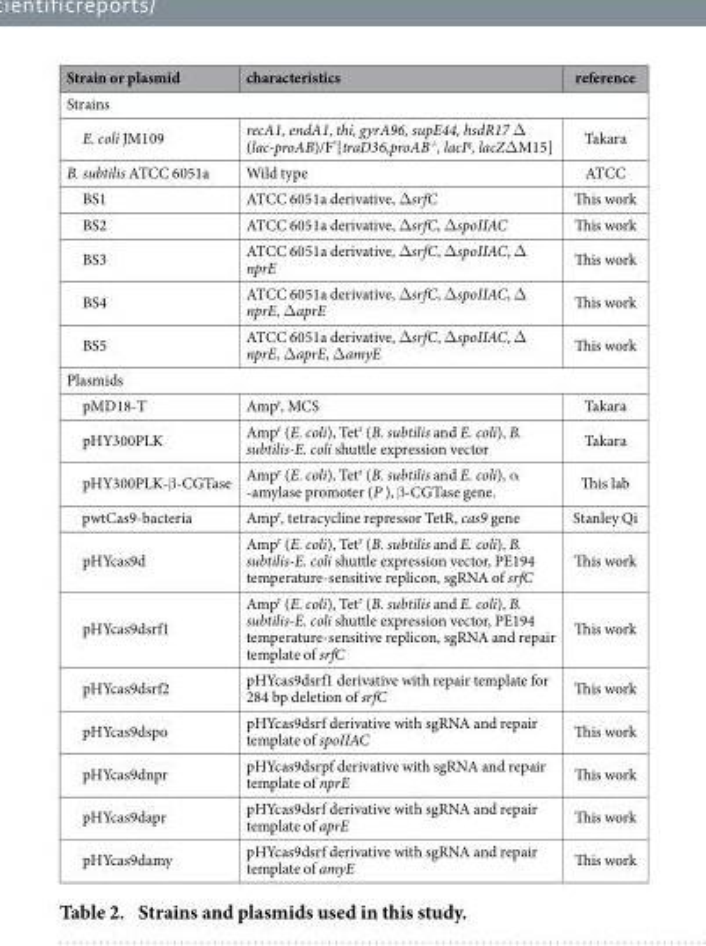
<table><thead><tr><td>Strain or plasmid</td><td>characteristics</td><td>reference</td></tr></thead><tbody><tr><td colspan="3">Strains</td></tr><tr><td>E. coli JM109</td><td>recA1, endA1, thi, gyrA96, supE44, hsdR17 Δ (lac-proAB)/F’[traD36,proAB<sup>+</sup>, lacІ<sup>q</sup>, lacZΔ M15]</td><td>Takara</td></tr><tr><td>B. subtilis ATCC 6051a</td><td>Wild type</td><td>ATCC</td></tr><tr><td>BS1</td><td>ATCC 6051a derivative, Δ srfC</td><td>This work</td></tr><tr><td>BS2</td><td>ATCC 6051a derivative, Δ srfC, Δ spoIIAC</td><td>This work</td></tr><tr><td>BS3</td><td>ATCC 6051a derivative, Δ srfC, Δ spoIIAC, Δ nprE</td><td>This work</td></tr><tr><td>BS4</td><td>ATCC 6051a derivative, Δ srfC, Δ spoIIAC, Δ nprE, Δ aprE</td><td>This work</td></tr><tr><td>BS5</td><td>ATCC 6051a derivative, Δ srfC, Δ spoIIAC, Δ nprE, Δ aprE, Δ amyE</td><td>This work</td></tr><tr><td colspan="3">Plasmids</td></tr><tr><td>pMD18-T</td><td>Amp<sup>r</sup>, MCS</td><td>Takara</td></tr><tr><td>pHY300PLK</td><td>Amp<sup>r</sup> (E. coli), Tet<sup>r</sup> (B. subtilis and E. coli), B. subtilis-E. coli shuttle expression vector</td><td>Takara</td></tr><tr><td>pHY300PLK-β -CGTase</td><td>Amp<sup>r</sup> (E. coli), Tet<sup>r</sup> (B. subtilis and E. coli), α -amylase promoter (P ), β -CGTase gene.</td><td>This lab</td></tr><tr><td>pwtCas9-bacteria</td><td>Amp<sup>r</sup>, tetracycline repressor TetR, cas9 gene</td><td>Stanley Qi</td></tr><tr><td>pHYcas9d</td><td>Amp<sup>r</sup> (E. coli), Tet<sup>r</sup> (B. subtilis and E. coli), B. subtilis-E. coli shuttle expression vector, PE194 temperature-sensitive replicon, sgRNA of srfC</td><td>This work</td></tr><tr><td>pHYcas9dsrf1</td><td>Amp<sup>r</sup> (E. coli), Tet<sup>r</sup> (B. subtilis and E. coli), B. subtilis-E. coli shuttle expression vector, PE194 temperature-sensitive replicon, sgRNA and repair template of srfC</td><td>This work</td></tr><tr><td>pHYcas9dsrf2</td><td>pHYcas9dsrf1 derivative with repair template for 284 bp deletion of srfC</td><td>This work</td></tr><tr><td>pHYcas9dspo</td><td>pHYcas9dsrf derivative with sgRNA and repair template of spoIIAC</td><td>This work</td></tr><tr><td>pHYcas9dnpr</td><td>pHYcas9dsrpf derivative with sgRNA and repair template of nprE</td><td>This work</td></tr><tr><td>pHYcas9dapr</td><td>pHYcas9dsrf derivative with sgRNA and repair template of aprE</td><td>This work</td></tr><tr><td>pHYcas9damy</td><td>pHYcas9dsrf derivative with sgRNA and repair template of amyE</td><td>This work</td></tr></tbody></table>